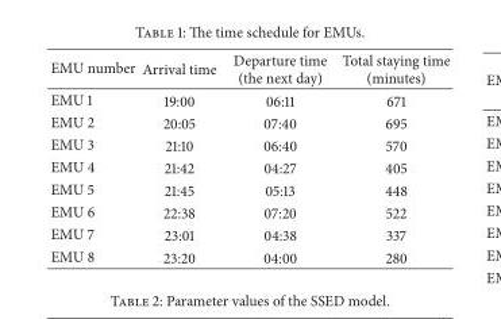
<table><thead><tr><td>EMU number</td><td>Arrival time</td><td>Departure time (the next day)</td><td>Total staying time (minutes)</td></tr></thead><tbody><tr><td>EMU 1</td><td>19:00</td><td>06:11</td><td>671</td></tr><tr><td>EMU 2</td><td>20:05</td><td>07:40</td><td>695</td></tr><tr><td>EMU 3</td><td>21:10</td><td>06:40</td><td>570</td></tr><tr><td>EMU 4</td><td>21:42</td><td>04:27</td><td>405</td></tr><tr><td>EMU 5</td><td>21:45</td><td>05:13</td><td>448</td></tr><tr><td>EMU 6</td><td>22:38</td><td>07:20</td><td>522</td></tr><tr><td>EMU 7</td><td>23:01</td><td>04:38</td><td>337</td></tr><tr><td>EMU 8</td><td>23:20</td><td>04:00</td><td>280</td></tr></tbody></table>